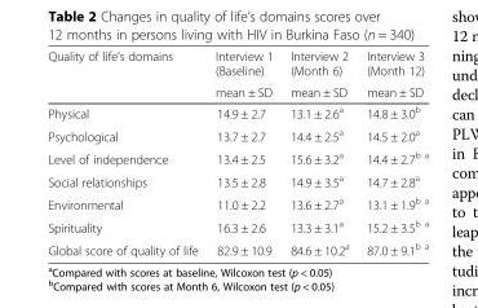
<table><thead><tr><td rowspan="2">Quality of life’s domains</td><td rowspan="2">Interview 1 (Baseline) mean ± SD</td><td rowspan="2">Interview 2 (Month 6) mean ± SD</td><td rowspan="2">Interview 3 (Month 12) mean ± SD</td></tr><tr></tr></thead><tbody><tr><td>Physical</td><td>14.9 ± 2.7</td><td>13.1 ± 2.6<sup>a</sup></td><td>14.8 ± 3.0<sup>b</sup></td></tr><tr><td>Psychological</td><td>13.7 ± 2.7</td><td>14.4 ± 2.5<sup>a</sup></td><td>14.5 ± 2.0<sup>a</sup></td></tr><tr><td>Level of independence</td><td>13.4 ± 2.5</td><td>15.6 ± 3.2<sup>a</sup></td><td>14.4 ± 2.7<sup>b a</sup></td></tr><tr><td>Social relationships</td><td>13.5 ± 2.8</td><td>14.9 ± 3.5<sup>a</sup></td><td>14.7 ± 2.8<sup>a</sup></td></tr><tr><td>Environmental</td><td>11.0 ± 2.2</td><td>13.6 ± 2.7<sup>a</sup></td><td>13.1 ± 1.9<sup>b a</sup></td></tr><tr><td>Spirituality</td><td>16.3 ± 2.6</td><td>13.3 ± 3.1<sup>a</sup></td><td>15.2 ± 3.5<sup>b a</sup></td></tr><tr><td>Global score of quality of life</td><td>82.9 ± 10.9</td><td>84.6 ± 10.2<sup>a</sup></td><td>87.0 ± 9.1<sup>b a</sup></td></tr></tbody></table>